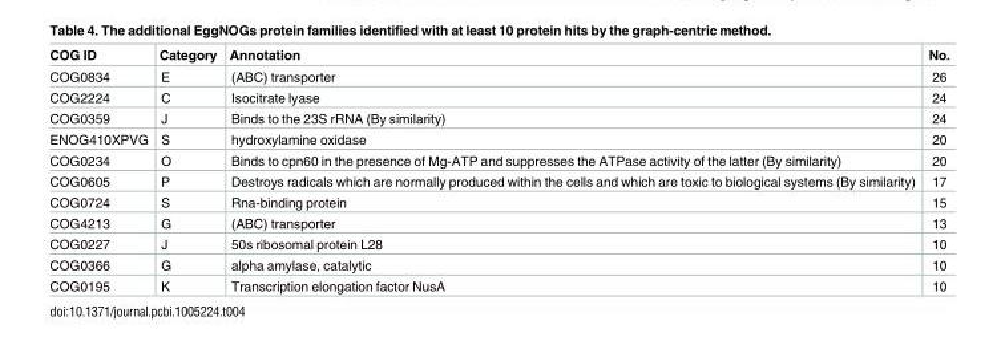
<table><thead><tr><td>COG ID</td><td>Category</td><td>Annotation</td><td>No.</td></tr></thead><tbody><tr><td>COG0834</td><td>E</td><td>(ABC) transporter</td><td>26</td></tr><tr><td>COG2224</td><td>C</td><td>Isocitrate lyase</td><td>24</td></tr><tr><td>COG0359</td><td>J</td><td>Binds to the 23S rRNA (By similarity)</td><td>24</td></tr><tr><td>ENOG410XPVG</td><td>S</td><td>hydroxylamine oxidase</td><td>20</td></tr><tr><td>COG0234</td><td>O</td><td>Binds to cpn60 in the presence of Mg-ATP and suppresses the ATPase activity of the latter (By similarity)</td><td>20</td></tr><tr><td>COG0605</td><td>P</td><td>Destroys radicals which are normally produced within the cells and which are toxic to biological systems (By similarity)</td><td>17</td></tr><tr><td>COG0724</td><td>S</td><td>Rna-binding protein</td><td>15</td></tr><tr><td>COG4213</td><td>G</td><td>(ABC) transporter</td><td>13</td></tr><tr><td>COG0227</td><td>J</td><td>50s ribosomal protein L28</td><td>10</td></tr><tr><td>COG0366</td><td>G</td><td>alpha amylase, catalytic</td><td>10</td></tr><tr><td>COG0195</td><td>K</td><td>Transcription elongation factor NusA</td><td>10</td></tr></tbody></table>